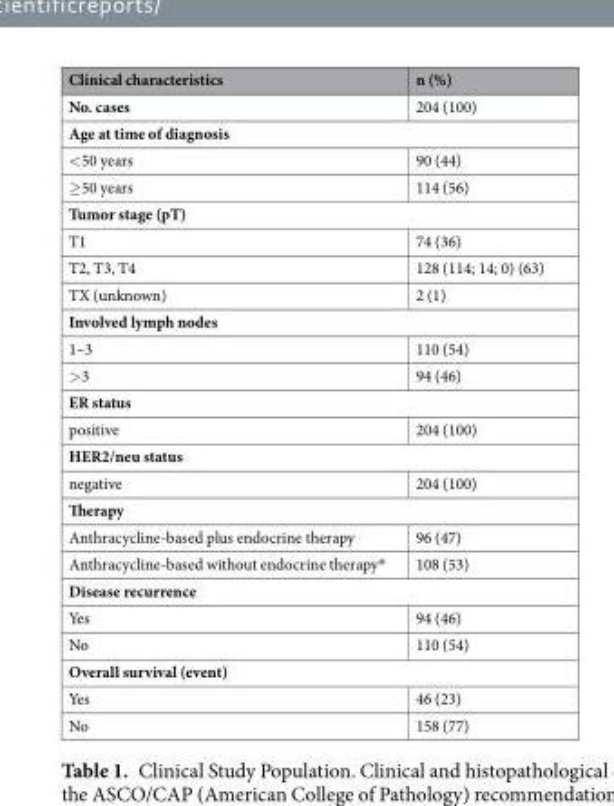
<table><thead><tr><td>Clinical characteristics</td><td>n (%)</td></tr></thead><tbody><tr><td>No. cases</td><td>204 (100)</td></tr><tr><td colspan="2">Age at time of diagnosis</td></tr><tr><td>&lt;50 years</td><td>90 (44)</td></tr><tr><td>≥50 years</td><td>114 (56)</td></tr><tr><td colspan="2">Tumor stage (pT)</td></tr><tr><td>T1</td><td>74 (36)</td></tr><tr><td>T2, T3, T4</td><td>128 (114; 14; 0) (63)</td></tr><tr><td>TX (unknown)</td><td>2 (1)</td></tr><tr><td colspan="2">Involved lymph nodes</td></tr><tr><td>1–3</td><td>110 (54)</td></tr><tr><td>&gt;3</td><td>94 (46)</td></tr><tr><td colspan="2">ER status</td></tr><tr><td>positive</td><td>204 (100)</td></tr><tr><td colspan="2">HER2/neu status</td></tr><tr><td>negative</td><td>204 (100)</td></tr><tr><td colspan="2">Therapy</td></tr><tr><td>Anthracycline-based plus endocrine therapy</td><td>96 (47)</td></tr><tr><td>Anthracycline-based without endocrine therapy*</td><td>108 (53)</td></tr><tr><td colspan="2">Disease recurrence</td></tr><tr><td>Yes</td><td>94 (46)</td></tr><tr><td>No</td><td>110 (54)</td></tr><tr><td colspan="2">Overall survival (event)</td></tr><tr><td>Yes</td><td>46 (23)</td></tr><tr><td>No</td><td>158 (77)</td></tr></tbody></table>